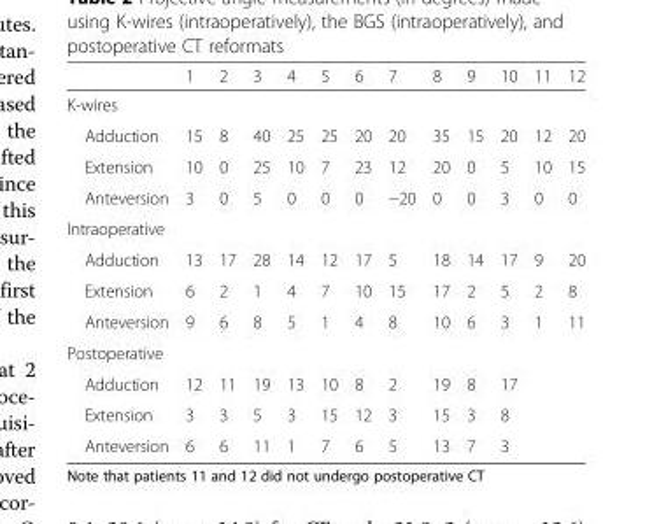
<table><thead><tr><td></td><td>1</td><td>2</td><td>3</td><td>4</td><td>5</td><td>6</td><td>7</td><td>8</td><td>9</td><td>10</td><td>11</td><td>12</td></tr></thead><tbody><tr><td colspan="13">K-wires</td></tr><tr><td>Adduction</td><td>15</td><td>8</td><td>40</td><td>25</td><td>25</td><td>20</td><td>20</td><td>35</td><td>15</td><td>20</td><td>12</td><td>20</td></tr><tr><td>Extension</td><td>10</td><td>0</td><td>25</td><td>10</td><td>7</td><td>23</td><td>12</td><td>20</td><td>0</td><td>5</td><td>10</td><td>15</td></tr><tr><td>Anteversion</td><td>3</td><td>0</td><td>5</td><td>0</td><td>0</td><td>0</td><td>−20</td><td>0</td><td>0</td><td>3</td><td>0</td><td>0</td></tr><tr><td colspan="13">Intraoperative</td></tr><tr><td>Adduction</td><td>13</td><td>17</td><td>28</td><td>14</td><td>12</td><td>17</td><td>5</td><td>18</td><td>14</td><td>17</td><td>9</td><td>20</td></tr><tr><td>Extension</td><td>6</td><td>2</td><td>1</td><td>4</td><td>7</td><td>10</td><td>15</td><td>17</td><td>2</td><td>5</td><td>2</td><td>8</td></tr><tr><td>Anteversion</td><td>9</td><td>6</td><td>8</td><td>5</td><td>1</td><td>4</td><td>8</td><td>10</td><td>6</td><td>3</td><td>1</td><td>11</td></tr><tr><td colspan="13">Postoperative</td></tr><tr><td>Adduction</td><td>12</td><td>11</td><td>19</td><td>13</td><td>10</td><td>8</td><td>2</td><td>19</td><td>8</td><td>17</td><td></td><td></td></tr><tr><td>Extension</td><td>3</td><td>3</td><td>5</td><td>3</td><td>15</td><td>12</td><td>3</td><td>15</td><td>3</td><td>8</td><td></td><td></td></tr><tr><td>Anteversion</td><td>6</td><td>6</td><td>11</td><td>1</td><td>7</td><td>6</td><td>5</td><td>13</td><td>7</td><td>3</td><td></td><td></td></tr></tbody></table>